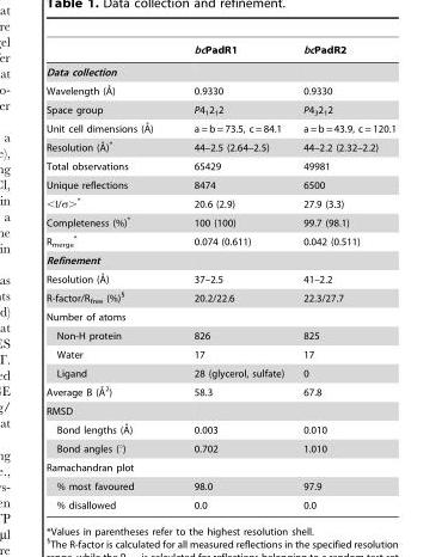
<table><thead><tr><td></td><td>bcPadR1</td><td>bcPadR2</td></tr></thead><tbody><tr><td colspan="3">Data collection</td></tr><tr><td>Wavelength (A˚)</td><td>0.9330</td><td>0.9330</td></tr><tr><td>Space group</td><td>P4<sub>1</sub>2<sub>1</sub>2</td><td>P4<sub>3</sub>2<sub>1</sub>2</td></tr><tr><td>Unit cell dimensions (A˚)</td><td>a = b = 73.5, c = 84.1</td><td>a = b = 43.9, c = 120.1</td></tr><tr><td>Resolution (A˚)*</td><td>44–2.5 (2.64–2.5)</td><td>44–2.2 (2.32–2.2)</td></tr><tr><td>Total observations</td><td>65429</td><td>49981</td></tr><tr><td>Unique reflections</td><td>8474</td><td>6500</td></tr><tr><td>&lt;I/σ&gt;*</td><td>20.6 (2.9)</td><td>27.9 (3.3)</td></tr><tr><td>Completeness (%)*</td><td>100 (100)</td><td>99.7 (98.1)</td></tr><tr><td>R<sub>merge</sub> *</td><td>0.074 (0.611)</td><td>0.042 (0.511)</td></tr><tr><td colspan="3">Refinement</td></tr><tr><td>Resolution (A˚)</td><td>37–2.5</td><td>41–2.2</td></tr><tr><td>R-factor/R<sub>free</sub> (%)§</td><td>20.2/22.6</td><td>22.3/27.7</td></tr><tr><td colspan="3">Number of atoms</td></tr><tr><td>Non-H protein</td><td>826</td><td>825</td></tr><tr><td>Water</td><td>17</td><td>17</td></tr><tr><td>Ligand</td><td>28 (glycerol, sulfate)</td><td>0</td></tr><tr><td>Average B (A˚ 2)</td><td>58.3</td><td>67.8</td></tr><tr><td colspan="3">RMSD</td></tr><tr><td>Bond lengths (A˚)</td><td>0.003</td><td>0.010</td></tr><tr><td>Bond angles (°)</td><td>0.702</td><td>1.010</td></tr><tr><td colspan="3">Ramachandran plot</td></tr><tr><td>% most favoured</td><td>98.0</td><td>97.9</td></tr><tr><td>% disallowed</td><td>0.0</td><td>0.0</td></tr></tbody></table>